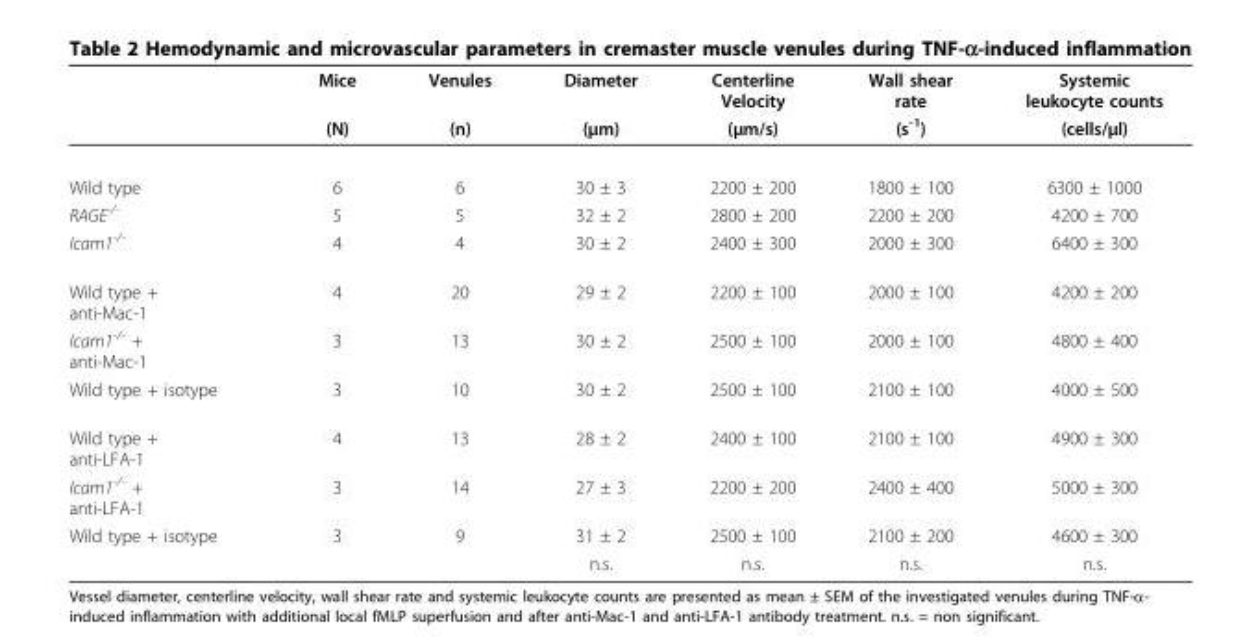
<table><thead><tr><td rowspan="2"></td><td rowspan="2">Mice (N)</td><td rowspan="2">Venules (n)</td><td rowspan="2">Diameter (μm)</td><td rowspan="2">Centerline Velocity (μm/s)</td><td rowspan="2">Wall shear rate (s-1)</td><td rowspan="2">Systemic leukocyte counts (cells/μl)</td></tr><tr></tr></thead><tbody><tr><td>Wild type</td><td>6</td><td>6</td><td>30 ± 3</td><td>2200 ± 200</td><td>1800 ± 100</td><td>6300 ± 1000</td></tr><tr><td>RAGE-/-</td><td>5</td><td>5</td><td>32 ± 2</td><td>2800 ± 200</td><td>2200 ± 200</td><td>4200 ± 700</td></tr><tr><td>Icam1-/-</td><td>4</td><td>4</td><td>30 ± 2</td><td>2400 ± 300</td><td>2000 ± 300</td><td>6400 ± 300</td></tr><tr><td>Wild type + anti-Mac-1</td><td>4</td><td>20</td><td>29 ± 2</td><td>2200 ± 100</td><td>2000 ± 100</td><td>4200 ± 200</td></tr><tr><td>Icam1<sup>-/-</sup> + anti-Mac-1</td><td>3</td><td>13</td><td>30 ± 2</td><td>2500 ± 100</td><td>2000 ± 100</td><td>4800 ± 400</td></tr><tr><td>Wild type + isotype</td><td>3</td><td>10</td><td>30 ± 2</td><td>2500 ± 100</td><td>2100 ± 100</td><td>4000 ± 500</td></tr><tr><td>Wild type + anti-LFA-1</td><td>4</td><td>13</td><td>28 ± 2</td><td>2400 ± 100</td><td>2100 ± 100</td><td>4900 ± 300</td></tr><tr><td>Icam1<sup>-/-</sup> + anti-LFA-1</td><td>3</td><td>14</td><td>27 ± 3</td><td>2200 ± 200</td><td>2400 ± 400</td><td>5000 ± 300</td></tr><tr><td rowspan="2">Wild type + isotype</td><td>3</td><td>9</td><td>31 ± 2</td><td>2500 ± 100</td><td>2100 ± 200</td><td>4600 ± 300</td></tr><tr><td></td><td></td><td>n.s.</td><td>n.s.</td><td>n.s.</td><td>n.s.</td></tr></tbody></table>